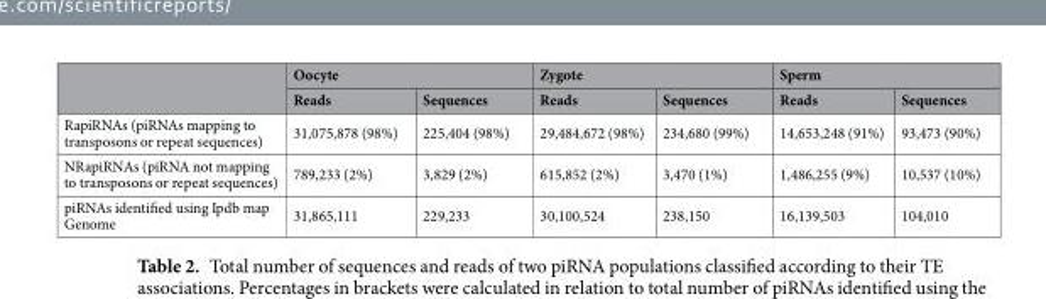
<table><thead><tr><td rowspan="2"></td><td colspan="2">Oocyte</td><td colspan="2">Zygote</td><td colspan="2">Sperm</td></tr><tr><td>Reads</td><td>Sequences</td><td>Reads</td><td>Sequences</td><td>Reads</td><td>Sequences</td></tr></thead><tbody><tr><td>RapiRNAs (piRNAs mapping to transposons or repeat sequences)</td><td>31,075,878 (98%)</td><td>225,404 (98%)</td><td>29,484,672 (98%)</td><td>234,680 (99%)</td><td>14,653,248 (91%)</td><td>93,473 (90%)</td></tr><tr><td>NRapiRNAs (piRNA not mapping to transposons or repeat sequences)</td><td>789,233 (2%)</td><td>3,829 (2%)</td><td>615,852 (2%)</td><td>3,470 (1%)</td><td>1,486,255 (9%)</td><td>10,537 (10%)</td></tr><tr><td>piRNAs identified using Ipdb map Genome</td><td>31,865,111</td><td>229,233</td><td>30,100,524</td><td>238,150</td><td>16,139,503</td><td>104,010</td></tr></tbody></table>